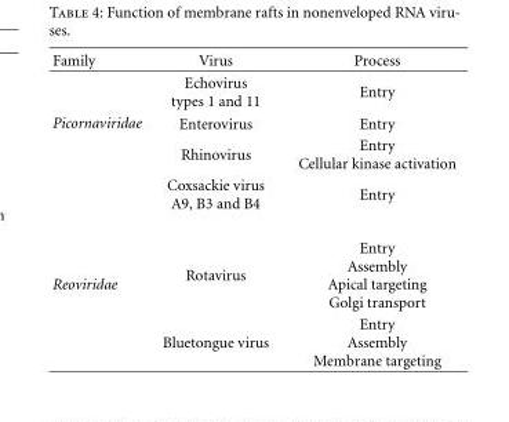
<table><thead><tr><td>Family</td><td>Virus</td><td>Process</td></tr></thead><tbody><tr><td rowspan="4">Picornaviridae</td><td>Echovirus types 1 and 11</td><td>Entry</td></tr><tr><td>Enterovirus</td><td>Entry</td></tr><tr><td>Rhinovirus</td><td>Entry Cellular kinase activation</td></tr><tr><td>Coxsackie virus A9, B3 and B4</td><td>Entry</td></tr><tr><td rowspan="2">Reoviridae</td><td>Rotavirus</td><td>Entry Assembly Apical targeting Golgi transport</td></tr><tr><td>Bluetongue virus</td><td>Entry Assembly Membrane targeting</td></tr></tbody></table>